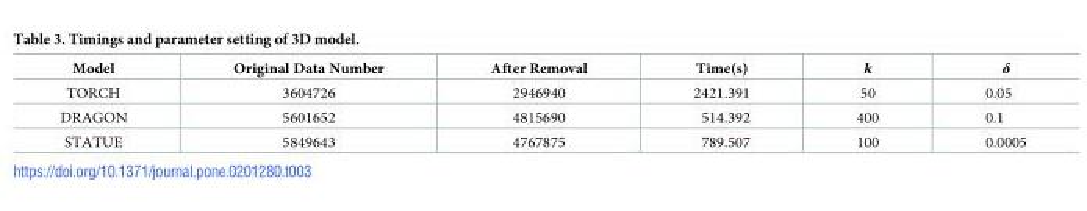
<table><thead><tr><td>Model</td><td>Original Data Number</td><td>After Removal</td><td>Time(s)</td><td>k</td><td>δ</td></tr></thead><tbody><tr><td>TORCH</td><td>3604726</td><td>2946940</td><td>2421.391</td><td>50</td><td>0.05</td></tr><tr><td>DRAGON</td><td>5601652</td><td>4815690</td><td>514.392</td><td>400</td><td>0.1</td></tr><tr><td>STATUE</td><td>5849643</td><td>4767875</td><td>789.507</td><td>100</td><td>0.0005</td></tr></tbody></table>